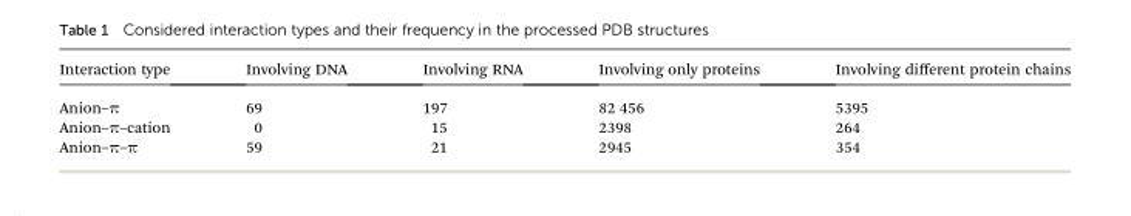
<table><thead><tr><td>Interaction type</td><td>Involving DNA</td><td>Involving RNA</td><td>Involving only proteins</td><td>Involving different protein chains</td></tr></thead><tbody><tr><td>Anion–π</td><td>69</td><td>197</td><td>82 456</td><td>5395</td></tr><tr><td>Anion–π–cation</td><td>0</td><td>15</td><td>2398</td><td>264</td></tr><tr><td>Anion–π–π</td><td>59</td><td>21</td><td>2945</td><td>354</td></tr></tbody></table>